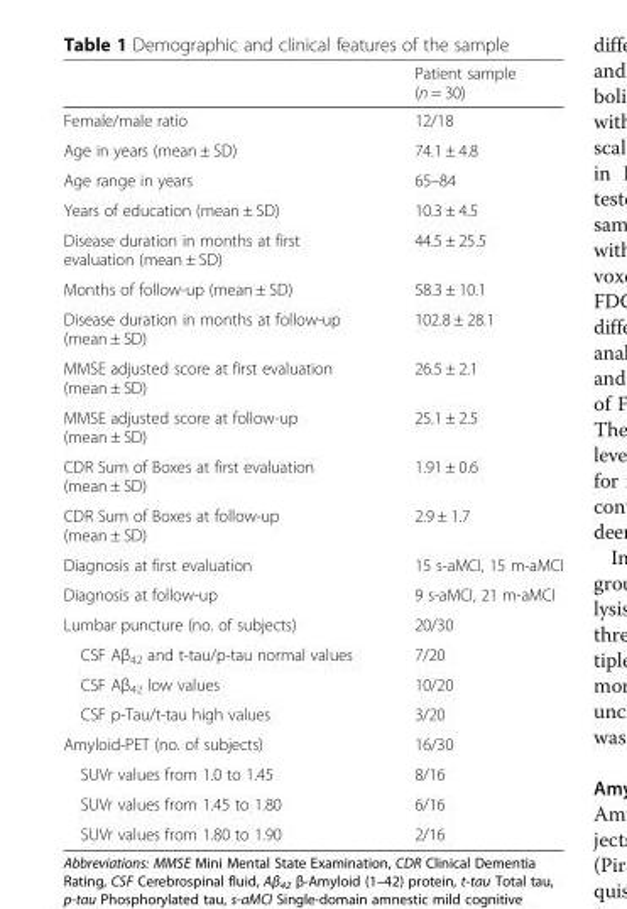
<table><thead><tr><td></td><td>Patient sample (n = 30)</td></tr></thead><tbody><tr><td>Female/male ratio</td><td>12/18</td></tr><tr><td>Age in years (mean ± SD)</td><td>74.1 ± 4.8</td></tr><tr><td>Age range in years</td><td>65–84</td></tr><tr><td>Years of education (mean ± SD)</td><td>10.3 ± 4.5</td></tr><tr><td>Disease duration in months at first evaluation (mean ± SD)</td><td>44.5 ± 25.5</td></tr><tr><td>Months of follow-up (mean ± SD)</td><td>58.3 ± 10.1</td></tr><tr><td>Disease duration in months at follow-up (mean ± SD)</td><td>102.8 ± 28.1</td></tr><tr><td>MMSE adjusted score at first evaluation (mean ± SD)</td><td>26.5 ± 2.1</td></tr><tr><td>MMSE adjusted score at follow-up (mean ± SD)</td><td>25.1 ± 2.5</td></tr><tr><td>CDR Sum of Boxes at first evaluation (mean ± SD)</td><td>1.91 ± 0.6</td></tr><tr><td>CDR Sum of Boxes at follow-up (mean ± SD)</td><td>2.9 ± 1.7</td></tr><tr><td>Diagnosis at first evaluation</td><td>15 s-aMCI, 15 m-aMCI</td></tr><tr><td>Diagnosis at follow-up</td><td>9 s-aMCI, 21 m-aMCI</td></tr><tr><td>Lumbar puncture (no. of subjects)</td><td>20/30</td></tr><tr><td>CSF Aβ<sub>42</sub> and t-tau/p-tau normal values</td><td>7/20</td></tr><tr><td>CSF Aβ<sub>42</sub> low values</td><td>10/20</td></tr><tr><td>CSF p-Tau/t-tau high values</td><td>3/20</td></tr><tr><td>Amyloid-PET (no. of subjects)</td><td>16/30</td></tr><tr><td>SUVr values from 1.0 to 1.45</td><td>8/16</td></tr><tr><td>SUVr values from 1.45 to 1.80</td><td>6/16</td></tr><tr><td>SUVr values from 1.80 to 1.90</td><td>2/16</td></tr></tbody></table>